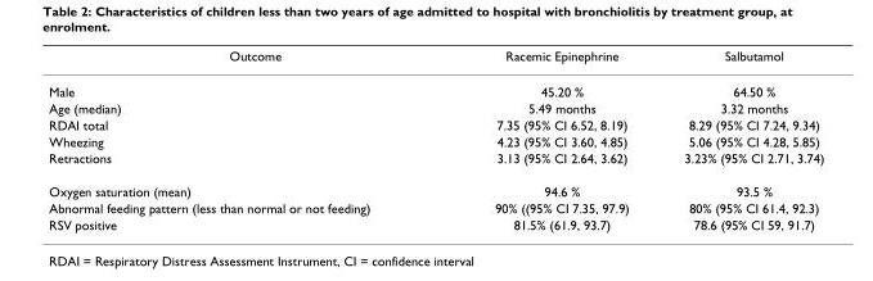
<table><thead><tr><td>Outcome</td><td>Racemic Epinephrine</td><td>Salbutamol</td></tr></thead><tbody><tr><td>Male</td><td>45.20 %</td><td>64.50 %</td></tr><tr><td>Age (median)</td><td>5.49 months</td><td>3.32 months</td></tr><tr><td>RDAI total</td><td>7.35 (95% CI 6.52, 8.19)</td><td>8.29 (95% CI 7.24, 9.34)</td></tr><tr><td>Wheezing</td><td>4.23 (95% CI 3.60, 4.85)</td><td>5.06 (95% CI 4.28, 5.85)</td></tr><tr><td>Retractions</td><td>3.13 (95% CI 2.64, 3.62)</td><td>3.23% (95% CI 2.71, 3.74)</td></tr><tr><td>Oxygen saturation (mean)</td><td>94.6 %</td><td>93.5 %</td></tr><tr><td>Abnormal feeding pattern (less than normal or not feeding)</td><td>90% ((95% CI 7.35, 97.9)</td><td>80% (95% CI 61.4, 92.3)</td></tr><tr><td>RSV positive</td><td>81.5% (61.9, 93.7)</td><td>78.6 (95% CI 59, 91.7)</td></tr></tbody></table>